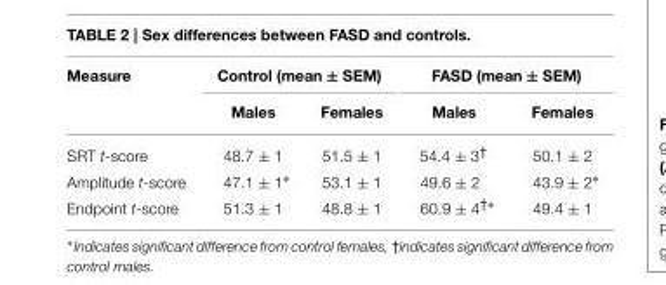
<table><thead><tr><td rowspan="2">Measure</td><td colspan="2">Control (mean ± SEM)</td><td colspan="2">FASD (mean ± SEM)</td></tr><tr><td>Males</td><td>Females</td><td>Males</td><td>Females</td></tr></thead><tbody><tr><td>SRT t-score</td><td>48.7 ± 1</td><td>51.5 ± 1</td><td>54.4 ± 3<sup>†</sup></td><td>50.1 ± 2</td></tr><tr><td>Amplitude t-score</td><td>47.1 ± 1∗</td><td>53.1 ± 1</td><td>49.6 ± 2</td><td>43.9 ± 2∗</td></tr><tr><td>Endpoint t-score</td><td>51.3 ± 1</td><td>48.8 ± 1</td><td>60.9 ± 4†∗</td><td>49.4 ± 1</td></tr></tbody></table>